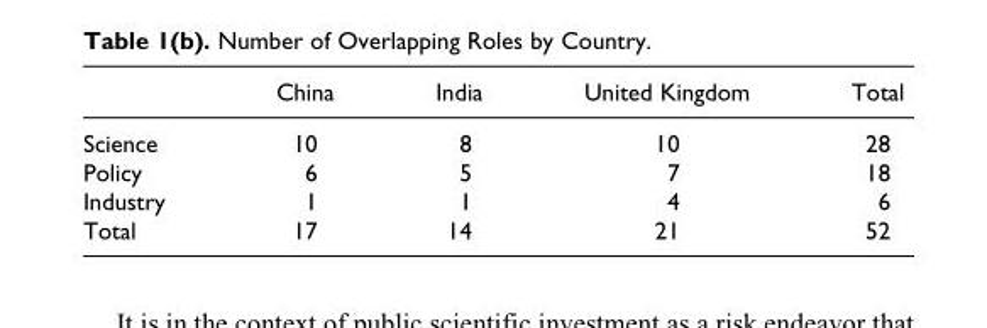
<table><thead><tr><td></td><td>China</td><td>India</td><td>United Kingdom</td><td>Total</td></tr></thead><tbody><tr><td>Science</td><td>10</td><td>8</td><td>10</td><td>28</td></tr><tr><td>Policy</td><td>6</td><td>5</td><td>7</td><td>18</td></tr><tr><td>Industry</td><td>1</td><td>1</td><td>4</td><td>6</td></tr><tr><td>Total</td><td>17</td><td>14</td><td>21</td><td>52</td></tr></tbody></table>